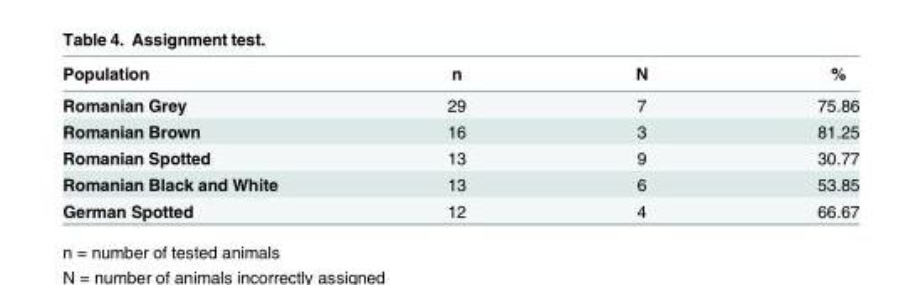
<table><thead><tr><td>Population</td><td>n</td><td>N</td><td>%</td></tr></thead><tbody><tr><td>Romanian Grey</td><td>29</td><td>7</td><td>75.86</td></tr><tr><td>Romanian Brown</td><td>16</td><td>3</td><td>81.25</td></tr><tr><td>Romanian Spotted</td><td>13</td><td>9</td><td>30.77</td></tr><tr><td>Romanian Black and White</td><td>13</td><td>6</td><td>53.85</td></tr><tr><td>German Spotted</td><td>12</td><td>4</td><td>66.67</td></tr></tbody></table>